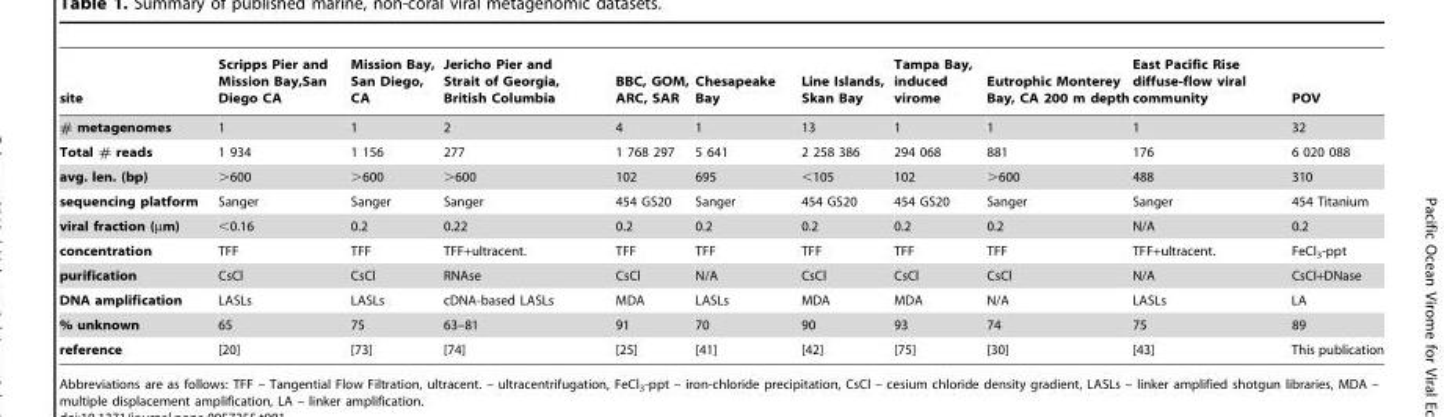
<table><thead><tr><td>site</td><td>Scripps Pier and Mission Bay,San Diego CA</td><td>Mission Bay, San Diego, CA</td><td>Jericho Pier and Strait of Georgia, British Columbia</td><td>BBC, GOM, ARC, SAR</td><td>Chesapeake Bay</td><td>Line Islands, Skan Bay</td><td>Tampa Bay, induced virome</td><td>Eutrophic Monterey Bay, CA 200 m depth</td><td>East Pacific Rise diffuse-flow viral community</td><td>POV</td></tr></thead><tbody><tr><td># metagenomes</td><td>1</td><td>1</td><td>2</td><td>4</td><td>1</td><td>13</td><td>1</td><td>1</td><td>1</td><td>32</td></tr><tr><td>Total # reads</td><td>1 934</td><td>1 156</td><td>277</td><td>1 768 297</td><td>5 641</td><td>2 258 386</td><td>294 068</td><td>881</td><td>176</td><td>6 020 088</td></tr><tr><td>avg. len. (bp)</td><td>&gt;600</td><td>&gt;600</td><td>&gt;600</td><td>102</td><td>695</td><td>&lt;105</td><td>102</td><td>&gt;600</td><td>488</td><td>310</td></tr><tr><td>sequencing platform</td><td>Sanger</td><td>Sanger</td><td>Sanger</td><td>454 GS20</td><td>Sanger</td><td>454 GS20</td><td>454 GS20</td><td>Sanger</td><td>Sanger</td><td>454 Titanium</td></tr><tr><td>viral fraction (µm)</td><td>&lt;0.16</td><td>0.2</td><td>0.22</td><td>0.2</td><td>0.2</td><td>0.2</td><td>0.2</td><td>0.2</td><td>N/A</td><td>0.2</td></tr><tr><td>concentration</td><td>TFF</td><td>TFF</td><td>TFF+ultracent.</td><td>TFF</td><td>TFF</td><td>TFF</td><td>TFF</td><td>TFF</td><td>TFF+ultracent.</td><td>FeCl<sub>3</sub>-ppt</td></tr><tr><td>purification</td><td>CsCl</td><td>CsCl</td><td>RNAse</td><td>CsCl</td><td>N/A</td><td>CsCl</td><td>CsCl</td><td>CsCl</td><td>N/A</td><td>CsCl+DNase</td></tr><tr><td>DNA amplification</td><td>LASLs</td><td>LASLs</td><td>cDNA-based LASLs</td><td>MDA</td><td>LASLs</td><td>MDA</td><td>MDA</td><td>N/A</td><td>LASLs</td><td>LA</td></tr><tr><td>% unknown</td><td>65</td><td>75</td><td>63–81</td><td>91</td><td>70</td><td>90</td><td>93</td><td>74</td><td>75</td><td>89</td></tr><tr><td>reference</td><td>[20]</td><td>[73]</td><td>[74]</td><td>[25]</td><td>[41]</td><td>[42]</td><td>[75]</td><td>[30]</td><td>[43]</td><td>This publication</td></tr></tbody></table>